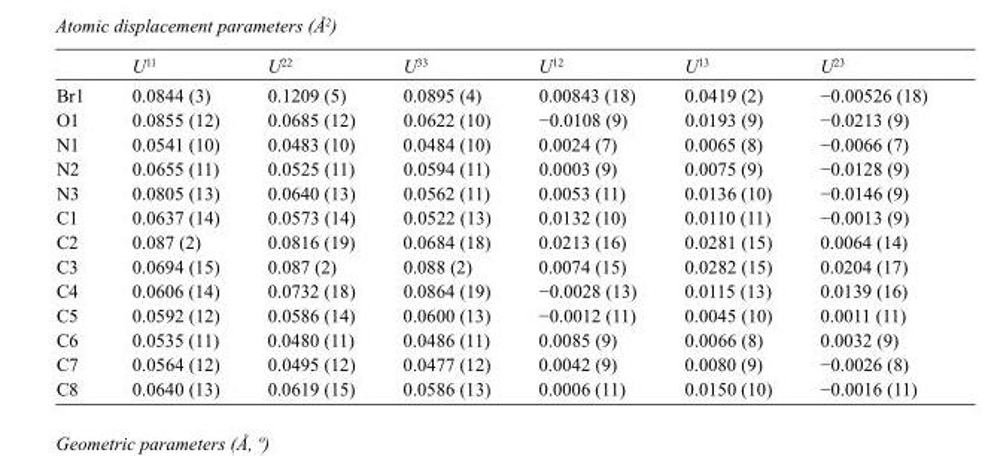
<table><thead><tr><td></td><td>U<sup>11</sup></td><td>U<sup>22</sup></td><td>U<sup>33</sup></td><td>U<sup>12</sup></td><td>U<sup>13</sup></td><td>U<sup>23</sup></td></tr></thead><tbody><tr><td>Br1</td><td>0.0844 (3)</td><td>0.1209 (5)</td><td>0.0895 (4)</td><td>0.00843 (18)</td><td>0.0419 (2)</td><td>−0.00526 (18)</td></tr><tr><td>O1</td><td>0.0855 (12)</td><td>0.0685 (12)</td><td>0.0622 (10)</td><td>−0.0108 (9)</td><td>0.0193 (9)</td><td>−0.0213 (9)</td></tr><tr><td>N1</td><td>0.0541 (10)</td><td>0.0483 (10)</td><td>0.0484 (10)</td><td>0.0024 (7)</td><td>0.0065 (8)</td><td>−0.0066 (7)</td></tr><tr><td>N2</td><td>0.0655 (11)</td><td>0.0525 (11)</td><td>0.0594 (11)</td><td>0.0003 (9)</td><td>0.0075 (9)</td><td>−0.0128 (9)</td></tr><tr><td>N3</td><td>0.0805 (13)</td><td>0.0640 (13)</td><td>0.0562 (11)</td><td>0.0053 (11)</td><td>0.0136 (10)</td><td>−0.0146 (9)</td></tr><tr><td>C1</td><td>0.0637 (14)</td><td>0.0573 (14)</td><td>0.0522 (13)</td><td>0.0132 (10)</td><td>0.0110 (11)</td><td>−0.0013 (9)</td></tr><tr><td>C2</td><td>0.087 (2)</td><td>0.0816 (19)</td><td>0.0684 (18)</td><td>0.0213 (16)</td><td>0.0281 (15)</td><td>0.0064 (14)</td></tr><tr><td>C3</td><td>0.0694 (15)</td><td>0.087 (2)</td><td>0.088 (2)</td><td>0.0074 (15)</td><td>0.0282 (15)</td><td>0.0204 (17)</td></tr><tr><td>C4</td><td>0.0606 (14)</td><td>0.0732 (18)</td><td>0.0864 (19)</td><td>−0.0028 (13)</td><td>0.0115 (13)</td><td>0.0139 (16)</td></tr><tr><td>C5</td><td>0.0592 (12)</td><td>0.0586 (14)</td><td>0.0600 (13)</td><td>−0.0012 (11)</td><td>0.0045 (10)</td><td>0.0011 (11)</td></tr><tr><td>C6</td><td>0.0535 (11)</td><td>0.0480 (11)</td><td>0.0486 (11)</td><td>0.0085 (9)</td><td>0.0066 (8)</td><td>0.0032 (9)</td></tr><tr><td>C7</td><td>0.0564 (12)</td><td>0.0495 (12)</td><td>0.0477 (12)</td><td>0.0042 (9)</td><td>0.0080 (9)</td><td>−0.0026 (8)</td></tr><tr><td>C8</td><td>0.0640 (13)</td><td>0.0619 (15)</td><td>0.0586 (13)</td><td>0.0006 (11)</td><td>0.0150 (10)</td><td>−0.0016 (11)</td></tr></tbody></table>